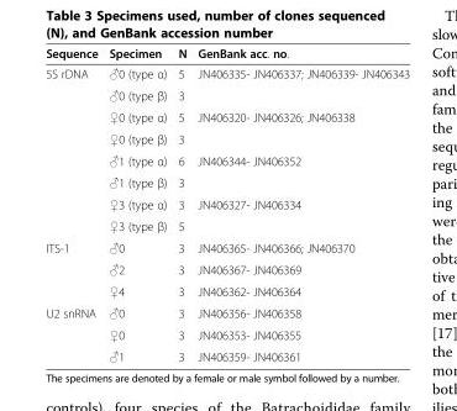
<table><thead><tr><td>Sequence</td><td>Specimen</td><td>N</td><td>GenBank acc. no.</td></tr></thead><tbody><tr><td rowspan="8">5S rDNA</td><td>♂0 (type α)</td><td>5</td><td rowspan="2">JN406335- JN406337; JN406339- JN406343</td></tr><tr><td>♂0 (type β)</td><td>3</td></tr><tr><td>♀0 (type α)</td><td>5</td><td rowspan="2">JN406320- JN406326; JN406338</td></tr><tr><td>♀0 (type β)</td><td>3</td></tr><tr><td>♂1 (type α)</td><td>6</td><td rowspan="2">JN406344- JN406352</td></tr><tr><td>♂1 (type β)</td><td>3</td></tr><tr><td>♀3 (type α)</td><td>3</td><td rowspan="2">JN406327- JN406334</td></tr><tr><td>♀3 (type β)</td><td>5</td></tr><tr><td rowspan="3">ITS-1</td><td>♂0</td><td>3</td><td>JN406365- JN406366; JN406370</td></tr><tr><td>♂2</td><td>3</td><td>JN406367- JN406369</td></tr><tr><td>♀4</td><td>3</td><td>JN406362- JN406364</td></tr><tr><td rowspan="3">U2 snRNA</td><td>♂0</td><td>3</td><td>JN406356- JN406358</td></tr><tr><td>♀0</td><td>3</td><td>JN406353- JN406355</td></tr><tr><td>♂1</td><td>3</td><td>JN406359- JN406361</td></tr></tbody></table>